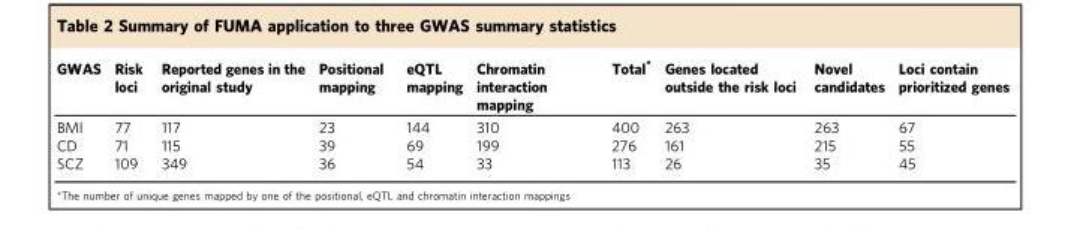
<table><thead><tr><td>GWAS</td><td>Risk loci</td><td>Reported genes in the original study</td><td>Positional mapping</td><td>eQTL mapping</td><td>Chromatin interaction mapping</td><td>Total*</td><td>Genes located outside the risk loci</td><td>Novel candidates</td><td>Loci contain prioritized genes</td></tr></thead><tbody><tr><td>BMI</td><td>77</td><td>117</td><td>23</td><td>144</td><td>310</td><td>400</td><td>263</td><td>263</td><td>67</td></tr><tr><td>CD</td><td>71</td><td>115</td><td>39</td><td>69</td><td>199</td><td>276</td><td>161</td><td>215</td><td>55</td></tr><tr><td>SCZ</td><td>109</td><td>349</td><td>36</td><td>54</td><td>33</td><td>113</td><td>26</td><td>35</td><td>45</td></tr></tbody></table>